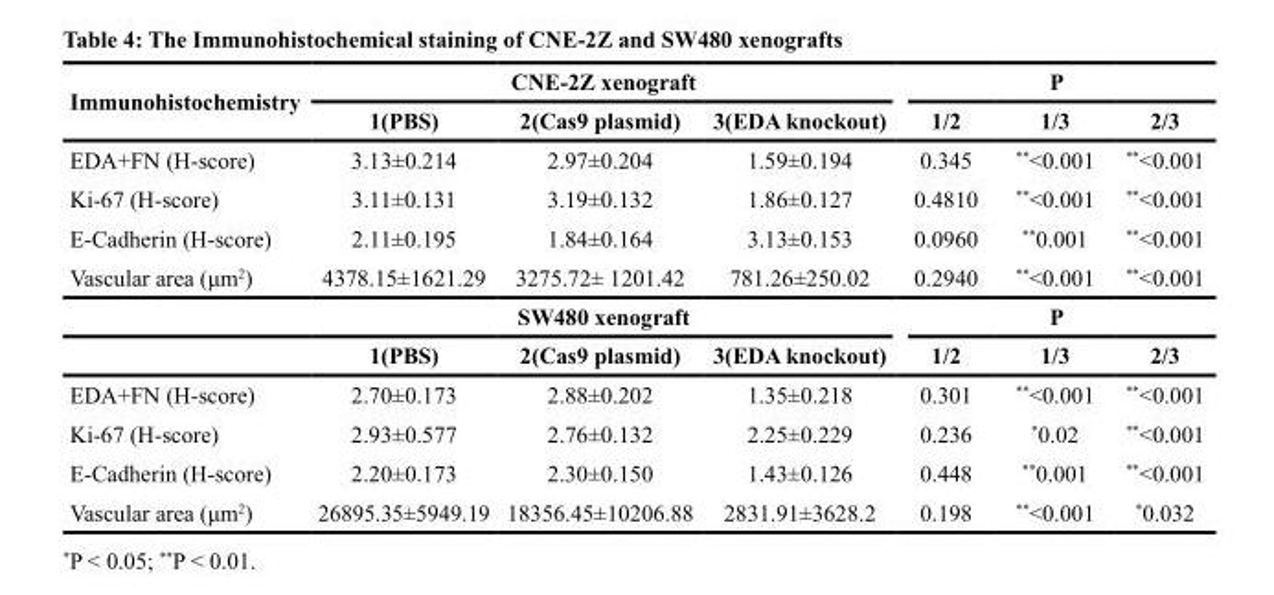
<table><thead><tr><td rowspan="2">Immunohistochemistry</td><td colspan="3">CNE-2Z xenograft</td><td colspan="3">P</td></tr><tr><td>1(PBS)</td><td>2(Cas9 plasmid)</td><td>3(EDA knockout)</td><td>1/2</td><td>1/3</td><td>2/3</td></tr></thead><tbody><tr><td>EDA+FN (H-score)</td><td>3.13±0.214</td><td>2.97±0.204</td><td>1.59±0.194</td><td>0.345</td><td>**&lt;0.001</td><td>**&lt;0.001</td></tr><tr><td>Ki-67 (H-score)</td><td>3.11±0.131</td><td>3.19±0.132</td><td>1.86±0.127</td><td>0.4810</td><td>**&lt;0.001</td><td>**&lt;0.001</td></tr><tr><td>E-Cadherin (H-score)</td><td>2.11±0.195</td><td>1.84±0.164</td><td>3.13±0.153</td><td>0.0960</td><td>**0.001</td><td>**&lt;0.001</td></tr><tr><td rowspan="3">Vascular area (μm<sup>2</sup>)</td><td>4378.15±1621.29</td><td>3275.72± 1201.42</td><td>781.26±250.02</td><td>0.2940</td><td>**&lt;0.001</td><td>**&lt;0.001</td></tr><tr><td colspan="3">SW480 xenograft</td><td colspan="3">P</td></tr><tr><td>1(PBS)</td><td>2(Cas9 plasmid)</td><td>3(EDA knockout)</td><td>1/2</td><td>1/3</td><td>2/3</td></tr><tr><td>EDA+FN (H-score)</td><td>2.70±0.173</td><td>2.88±0.202</td><td>1.35±0.218</td><td>0.301</td><td>**&lt;0.001</td><td>**&lt;0.001</td></tr><tr><td>Ki-67 (H-score)</td><td>2.93±0.577</td><td>2.76±0.132</td><td>2.25±0.229</td><td>0.236</td><td>*0.02</td><td>**&lt;0.001</td></tr><tr><td>E-Cadherin (H-score)</td><td>2.20±0.173</td><td>2.30±0.150</td><td>1.43±0.126</td><td>0.448</td><td>**0.001</td><td>**&lt;0.001</td></tr><tr><td>Vascular area (μm<sup>2</sup>)</td><td>26895.35±5949.19</td><td>18356.45±10206.88</td><td>2831.91±3628.2</td><td>0.198</td><td>**&lt;0.001</td><td>*0.032</td></tr></tbody></table>